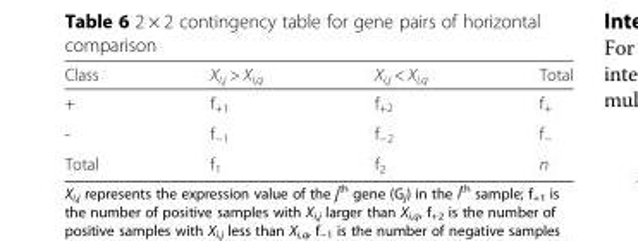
<table><thead><tr><td>Class</td><td>X<sub>i,j</sub> &gt; X<sub>i,q</sub></td><td>X<sub>i,j</sub> &lt; X<sub>i,q</sub></td><td>Total</td></tr></thead><tbody><tr><td>+</td><td>f<sub>+1</sub></td><td>f<sub>+2</sub></td><td>f<sub>+</sub></td></tr><tr><td>-</td><td>f<sub>−1</sub></td><td>f<sub>−2</sub></td><td>f<sub>−</sub></td></tr><tr><td>Total</td><td>f<sub>1</sub></td><td>f<sub>2</sub></td><td>n</td></tr></tbody></table>